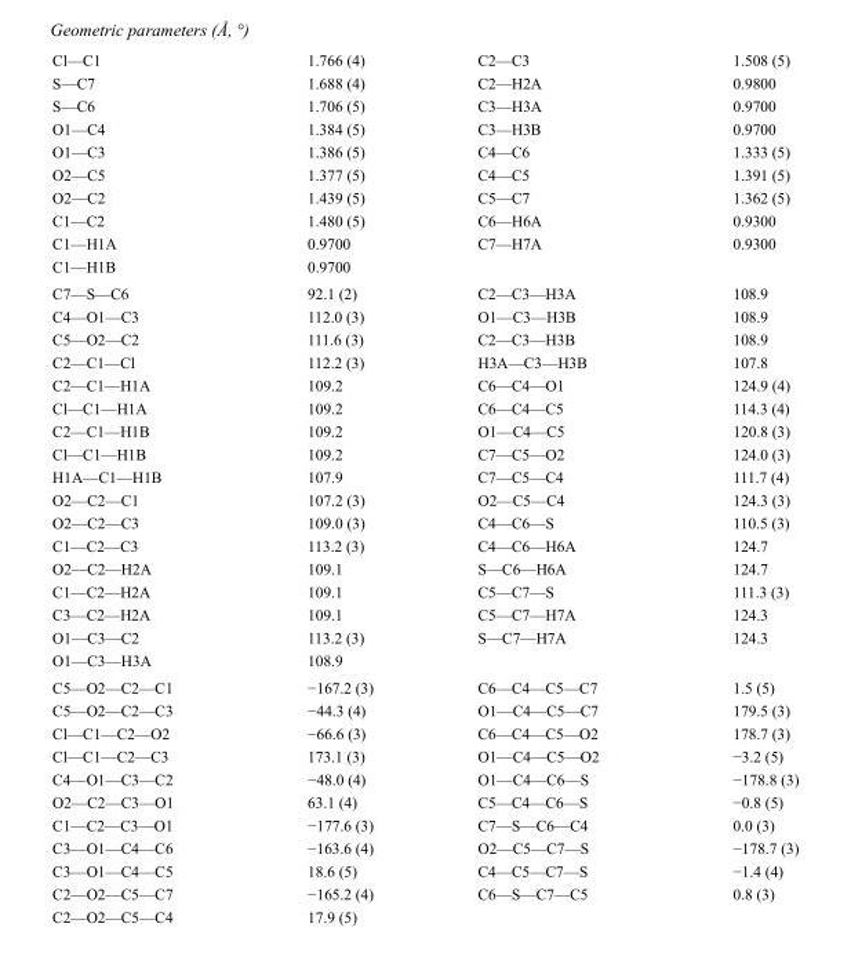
<table><tbody><tr><td>Cl—C1</td><td>1.766 (4)</td><td>C2—C3</td><td>1.508 (5)</td></tr><tr><td>S—C7</td><td>1.688 (4)</td><td>C2—H2A</td><td>0.9800</td></tr><tr><td>S—C6</td><td>1.706 (5)</td><td>C3—H3A</td><td>0.9700</td></tr><tr><td>O1—C4</td><td>1.384 (5)</td><td>C3—H3B</td><td>0.9700</td></tr><tr><td>O1—C3</td><td>1.386 (5)</td><td>C4—C6</td><td>1.333 (5)</td></tr><tr><td>O2—C5</td><td>1.377 (5)</td><td>C4—C5</td><td>1.391 (5)</td></tr><tr><td>O2—C2</td><td>1.439 (5)</td><td>C5—C7</td><td>1.362 (5)</td></tr><tr><td>C1—C2</td><td>1.480 (5)</td><td>C6—H6A</td><td>0.9300</td></tr><tr><td>C1—H1A</td><td>0.9700</td><td>C7—H7A</td><td>0.9300</td></tr><tr><td>C1—H1B</td><td>0.9700</td><td></td><td></td></tr><tr><td>C7—S—C6</td><td>92.1 (2)</td><td>C2—C3—H3A</td><td>108.9</td></tr><tr><td>C4—O1—C3</td><td>112.0 (3)</td><td>O1—C3—H3B</td><td>108.9</td></tr><tr><td>C5—O2—C2</td><td>111.6 (3)</td><td>C2—C3—H3B</td><td>108.9</td></tr><tr><td>C2—C1—Cl</td><td>112.2 (3)</td><td>H3A—C3—H3B</td><td>107.8</td></tr><tr><td>C2—C1—H1A</td><td>109.2</td><td>C6—C4—O1</td><td>124.9 (4)</td></tr><tr><td>Cl—C1—H1A</td><td>109.2</td><td>C6—C4—C5</td><td>114.3 (4)</td></tr><tr><td>C2—C1—H1B</td><td>109.2</td><td>O1—C4—C5</td><td>120.8 (3)</td></tr><tr><td>Cl—C1—H1B</td><td>109.2</td><td>C7—C5—O2</td><td>124.0 (3)</td></tr><tr><td>H1A—C1—H1B</td><td>107.9</td><td>C7—C5—C4</td><td>111.7 (4)</td></tr><tr><td>O2—C2—C1</td><td>107.2 (3)</td><td>O2—C5—C4</td><td>124.3 (3)</td></tr><tr><td>O2—C2—C3</td><td>109.0 (3)</td><td>C4—C6—S</td><td>110.5 (3)</td></tr><tr><td>C1—C2—C3</td><td>113.2 (3)</td><td>C4—C6—H6A</td><td>124.7</td></tr><tr><td>O2—C2—H2A</td><td>109.1</td><td>S—C6—H6A</td><td>124.7</td></tr><tr><td>C1—C2—H2A</td><td>109.1</td><td>C5—C7—S</td><td>111.3 (3)</td></tr><tr><td>C3—C2—H2A</td><td>109.1</td><td>C5—C7—H7A</td><td>124.3</td></tr><tr><td>O1—C3—C2</td><td>113.2 (3)</td><td>S—C7—H7A</td><td>124.3</td></tr><tr><td>O1—C3—H3A</td><td>108.9</td><td></td><td></td></tr><tr><td>C5—O2—C2—C1</td><td>−167.2 (3)</td><td>C6—C4—C5—C7</td><td>1.5 (5)</td></tr><tr><td>C5—O2—C2—C3</td><td>−44.3 (4)</td><td>O1—C4—C5—C7</td><td>179.5 (3)</td></tr><tr><td>Cl—C1—C2—O2</td><td>−66.6 (3)</td><td>C6—C4—C5—O2</td><td>178.7 (3)</td></tr><tr><td>Cl—C1—C2—C3</td><td>173.1 (3)</td><td>O1—C4—C5—O2</td><td>−3.2 (5)</td></tr><tr><td>C4—O1—C3—C2</td><td>−48.0 (4)</td><td>O1—C4—C6—S</td><td>−178.8 (3)</td></tr><tr><td>O2—C2—C3—O1</td><td>63.1 (4)</td><td>C5—C4—C6—S</td><td>−0.8 (5)</td></tr><tr><td>C1—C2—C3—O1</td><td>−177.6 (3)</td><td>C7—S—C6—C4</td><td>0.0 (3)</td></tr><tr><td>C3—O1—C4—C6</td><td>−163.6 (4)</td><td>O2—C5—C7—S</td><td>−178.7 (3)</td></tr><tr><td>C3—O1—C4—C5</td><td>18.6 (5)</td><td>C4—C5—C7—S</td><td>−1.4 (4)</td></tr><tr><td>C2—O2—C5—C7</td><td>−165.2 (4)</td><td>C6—S—C7—C5</td><td>0.8 (3)</td></tr><tr><td>C2—O2—C5—C4</td><td>17.9 (5)</td><td></td><td></td></tr></tbody></table>